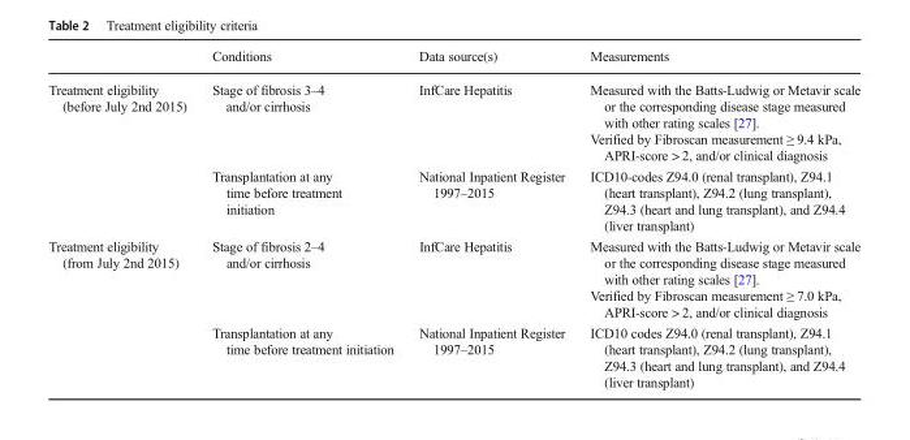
<table><thead><tr><td></td><td>Conditions</td><td>Data source(s)</td><td>Measurements</td></tr></thead><tbody><tr><td rowspan="2">Treatment eligibility (before July 2nd 2015)</td><td>Stage of fibrosis 3–4 and/or cirrhosis</td><td>InfCare Hepatitis</td><td>Measured with the Batts-Ludwig or Metavir scale or the corresponding disease stage measured with other rating scales [27]. Verified by Fibroscan measurement ≥ 9.4 kPa, APRI-score &gt; 2, and/or clinical diagnosis</td></tr><tr><td>Transplantation at any time before treatment initiation</td><td>National Inpatient Register 1997–2015</td><td>ICD10-codes Z94.0 (renal transplant), Z94.1 (heart transplant), Z94.2 (lung transplant), Z94.3 (heart and lung transplant), and Z94.4 (liver transplant)</td></tr><tr><td rowspan="2">Treatment eligibility (from July 2nd 2015)</td><td>Stage of fibrosis 2–4 and/or cirrhosis</td><td>InfCare Hepatitis</td><td>Measured with the Batts-Ludwig or Metavir scale or the corresponding disease stage measured with other rating scales [27]. Verified by Fibroscan measurement ≥ 7.0 kPa, APRI-score &gt; 2, and/or clinical diagnosis</td></tr><tr><td>Transplantation at any time before treatment initiation</td><td>National Inpatient Register 1997–2015</td><td>ICD10 codes Z94.0 (renal transplant), Z94.1 (heart transplant), Z94.2 (lung transplant), Z94.3 (heart and lung transplant), and Z94.4 (liver transplant)</td></tr></tbody></table>